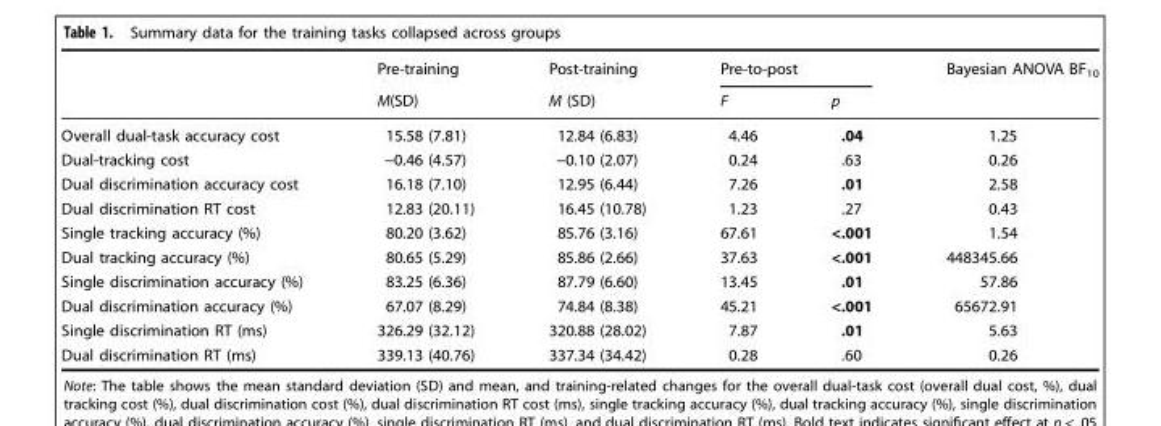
<table><thead><tr><td rowspan="2"></td><td rowspan="2">Pre-training M(SD)</td><td rowspan="2">Post-training M (SD)</td><td colspan="2">Pre-to-post</td><td rowspan="2">Bayesian ANOVA BF<sub>10</sub></td></tr><tr><td>F</td><td>p</td></tr></thead><tbody><tr><td>Overall dual-task accuracy cost</td><td>15.58 (7.81)</td><td>12.84 (6.83)</td><td>4.46</td><td>.04</td><td>1.25</td></tr><tr><td>Dual-tracking cost</td><td>−0.46 (4.57)</td><td>−0.10 (2.07)</td><td>0.24</td><td>.63</td><td>0.26</td></tr><tr><td>Dual discrimination accuracy cost</td><td>16.18 (7.10)</td><td>12.95 (6.44)</td><td>7.26</td><td>.01</td><td>2.58</td></tr><tr><td>Dual discrimination RT cost</td><td>12.83 (20.11)</td><td>16.45 (10.78)</td><td>1.23</td><td>.27</td><td>0.43</td></tr><tr><td>Single tracking accuracy (%)</td><td>80.20 (3.62)</td><td>85.76 (3.16)</td><td>67.61</td><td>&lt;.001</td><td>1.54</td></tr><tr><td>Dual tracking accuracy (%)</td><td>80.65 (5.29)</td><td>85.86 (2.66)</td><td>37.63</td><td>&lt;.001</td><td>448345.66</td></tr><tr><td>Single discrimination accuracy (%)</td><td>83.25 (6.36)</td><td>87.79 (6.60)</td><td>13.45</td><td>.01</td><td>57.86</td></tr><tr><td>Dual discrimination accuracy (%)</td><td>67.07 (8.29)</td><td>74.84 (8.38)</td><td>45.21</td><td>&lt;.001</td><td>65672.91</td></tr><tr><td>Single discrimination RT (ms)</td><td>326.29 (32.12)</td><td>320.88 (28.02)</td><td>7.87</td><td>.01</td><td>5.63</td></tr><tr><td>Dual discrimination RT (ms)</td><td>339.13 (40.76)</td><td>337.34 (34.42)</td><td>0.28</td><td>.60</td><td>0.26</td></tr></tbody></table>